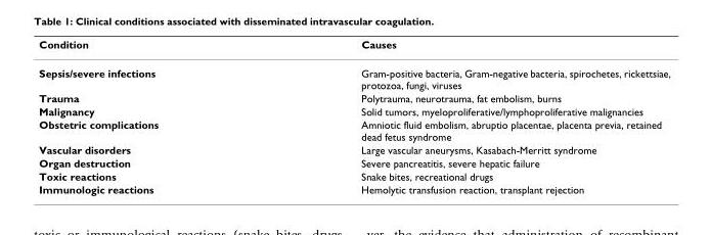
<table><thead><tr><td>Condition</td><td>Causes</td></tr></thead><tbody><tr><td>Sepsis/severe infections</td><td>Gram-positive bacteria, Gram-negative bacteria, spirochetes, rickettsiae, protozoa, fungi, viruses</td></tr><tr><td>Trauma</td><td>Polytrauma, neurotrauma, fat embolism, burns</td></tr><tr><td>Malignancy</td><td>Solid tumors, myeloproliferative/lymphoproliferative malignancies</td></tr><tr><td>Obstetric complications</td><td>Amniotic fluid embolism, abruptio placentae, placenta previa, retained dead fetus syndrome</td></tr><tr><td>Vascular disorders</td><td>Large vascular aneurysms, Kasabach-Merritt syndrome</td></tr><tr><td>Organ destruction</td><td>Severe pancreatitis, severe hepatic failure</td></tr><tr><td>Toxic reactions</td><td>Snake bites, recreational drugs</td></tr><tr><td>Immunologic reactions</td><td>Hemolytic transfusion reaction, transplant rejection</td></tr></tbody></table>